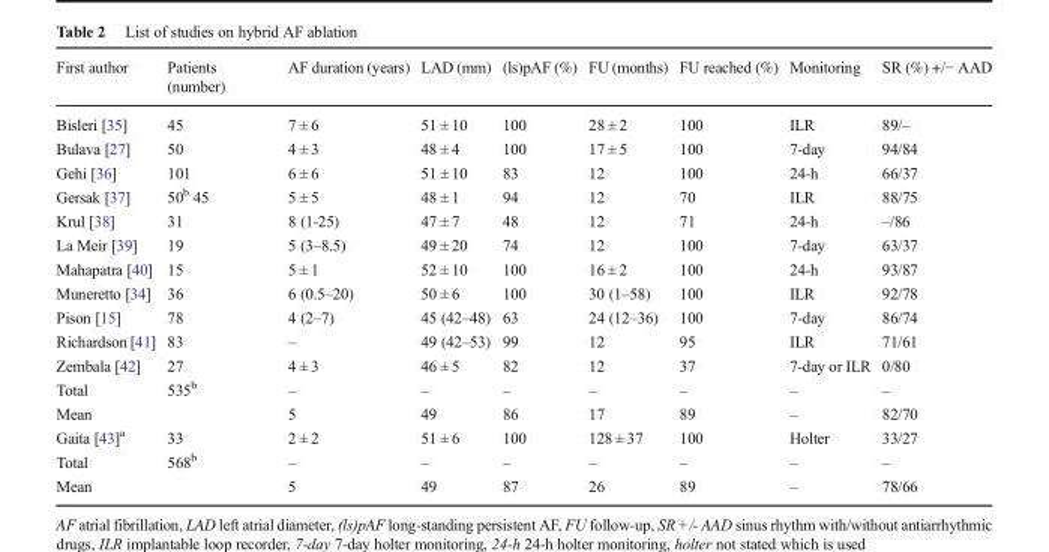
<table><thead><tr><td>First author</td><td>Patients (number)</td><td>AF duration (years)</td><td>LAD (mm)</td><td>(ls)pAF (%)</td><td>FU (months)</td><td>FU reached (%)</td><td>Monitoring</td><td>SR (%) +/− AAD</td></tr></thead><tbody><tr><td>Bisleri [35]</td><td>45</td><td>7 ± 6</td><td>51 ± 10</td><td>100</td><td>28 ± 2</td><td>100</td><td>ILR</td><td>89/–</td></tr><tr><td>Bulava [27]</td><td>50</td><td>4 ± 3</td><td>48 ± 4</td><td>100</td><td>17 ± 5</td><td>100</td><td>7-day</td><td>94/84</td></tr><tr><td>Gehi [36]</td><td>101</td><td>6 ± 6</td><td>51 ± 10</td><td>83</td><td>12</td><td>100</td><td>24-h</td><td>66/37</td></tr><tr><td>Gersak [37]</td><td>50<sup>b</sup> 45</td><td>5 ± 5</td><td>48 ± 1</td><td>94</td><td>12</td><td>70</td><td>ILR</td><td>88/75</td></tr><tr><td>Krul [38]</td><td>31</td><td>8 (1-25)</td><td>47 ± 7</td><td>48</td><td>12</td><td>71</td><td>24-h</td><td>–/86</td></tr><tr><td>La Meir [39]</td><td>19</td><td>5 (3–8.5)</td><td>49 ± 20</td><td>74</td><td>12</td><td>100</td><td>7-day</td><td>63/37</td></tr><tr><td>Mahapatra [40]</td><td>15</td><td>5 ± 1</td><td>52 ± 10</td><td>100</td><td>16 ± 2</td><td>100</td><td>24-h</td><td>93/87</td></tr><tr><td>Muneretto [34]</td><td>36</td><td>6 (0.5–20)</td><td>50 ± 6</td><td>100</td><td>30 (1–58)</td><td>100</td><td>ILR</td><td>92/78</td></tr><tr><td>Pison [15]</td><td>78</td><td>4 (2–7)</td><td>45 (42–48)</td><td>63</td><td>24 (12–36)</td><td>100</td><td>7-day</td><td>86/74</td></tr><tr><td>Richardson [41]</td><td>83</td><td>–</td><td>49 (42–53)</td><td>99</td><td>12</td><td>95</td><td>ILR</td><td>71/61</td></tr><tr><td>Zembala [42]</td><td>27</td><td>4 ± 3</td><td>46 ± 5</td><td>82</td><td>12</td><td>37</td><td>7-day or ILR</td><td>0/80</td></tr><tr><td>Total</td><td>535<sup>b</sup></td><td>–</td><td>–</td><td>–</td><td>–</td><td>–</td><td>–</td><td>–</td></tr><tr><td>Mean</td><td></td><td>5</td><td>49</td><td>86</td><td>17</td><td>89</td><td>–</td><td>82/70</td></tr><tr><td>Gaita [43]<sup>a</sup></td><td>33</td><td>2 ± 2</td><td>51 ± 6</td><td>100</td><td>128 ± 37</td><td>100</td><td>Holter</td><td>33/27</td></tr><tr><td>Total</td><td>568<sup>b</sup></td><td>–</td><td>–</td><td>–</td><td>–</td><td>–</td><td>–</td><td>–</td></tr><tr><td>Mean</td><td></td><td>5</td><td>49</td><td>87</td><td>26</td><td>89</td><td>–</td><td>78/66</td></tr></tbody></table>